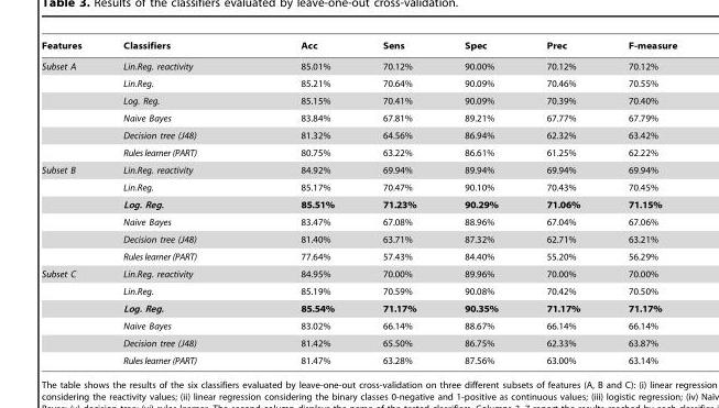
<table><thead><tr><td>Features</td><td>Classifiers</td><td>Acc</td><td>Sens</td><td>Spec</td><td>Prec</td><td>F-measure</td></tr></thead><tbody><tr><td rowspan="6">Subset A</td><td>Lin.Reg. reactivity</td><td>85.01%</td><td>70.12%</td><td>90.00%</td><td>70.12%</td><td>70.12%</td></tr><tr><td>Lin.Reg.</td><td>85.21%</td><td>70.64%</td><td>90.09%</td><td>70.46%</td><td>70.55%</td></tr><tr><td>Log. Reg.</td><td>85.15%</td><td>70.41%</td><td>90.09%</td><td>70.39%</td><td>70.40%</td></tr><tr><td>Naive Bayes</td><td>83.84%</td><td>67.81%</td><td>89.21%</td><td>67.77%</td><td>67.79%</td></tr><tr><td>Decision tree (J48)</td><td>81.32%</td><td>64.56%</td><td>86.94%</td><td>62.32%</td><td>63.42%</td></tr><tr><td>Rules learner (PART)</td><td>80.75%</td><td>63.22%</td><td>86.61%</td><td>61.25%</td><td>62.22%</td></tr><tr><td rowspan="6">Subset B</td><td>Lin.Reg. reactivity</td><td>84.92%</td><td>69.94%</td><td>89.94%</td><td>69.94%</td><td>69.94%</td></tr><tr><td>Lin.Reg.</td><td>85.17%</td><td>70.47%</td><td>90.10%</td><td>70.43%</td><td>70.45%</td></tr><tr><td>Log. Reg.</td><td>85.51%</td><td>71.23%</td><td>90.29%</td><td>71.06%</td><td>71.15%</td></tr><tr><td>Naive Bayes</td><td>83.47%</td><td>67.08%</td><td>88.96%</td><td>67.04%</td><td>67.06%</td></tr><tr><td>Decision tree (J48)</td><td>81.40%</td><td>63.71%</td><td>87.32%</td><td>62.71%</td><td>63.21%</td></tr><tr><td>Rules learner (PART)</td><td>77.64%</td><td>57.43%</td><td>84.40%</td><td>55.20%</td><td>56.29%</td></tr><tr><td rowspan="6">Subset C</td><td>Lin.Reg. reactivity</td><td>84.95%</td><td>70.00%</td><td>89.96%</td><td>70.00%</td><td>70.00%</td></tr><tr><td>Lin.Reg.</td><td>85.19%</td><td>70.59%</td><td>90.08%</td><td>70.42%</td><td>70.50%</td></tr><tr><td>Log. Reg.</td><td>85.54%</td><td>71.17%</td><td>90.35%</td><td>71.17%</td><td>71.17%</td></tr><tr><td>Naive Bayes</td><td>83.02%</td><td>66.14%</td><td>88.67%</td><td>66.14%</td><td>66.14%</td></tr><tr><td>Decision tree (J48)</td><td>81.42%</td><td>65.50%</td><td>86.75%</td><td>62.33%</td><td>63.87%</td></tr><tr><td>Rules learner (PART)</td><td>81.47%</td><td>63.28%</td><td>87.56%</td><td>63.00%</td><td>63.14%</td></tr></tbody></table>